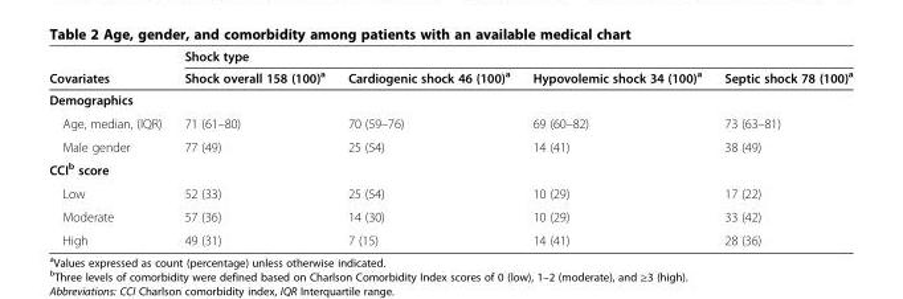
<table><thead><tr><td rowspan="2">Covariates</td><td colspan="4">Shock type</td></tr><tr><td>Shock overall 158 (100)<sup>a</sup></td><td>Cardiogenic shock 46 (100)<sup>a</sup></td><td>Hypovolemic shock 34 (100)<sup>a</sup></td><td>Septic shock 78 (100)<sup>a</sup></td></tr></thead><tbody><tr><td colspan="5">Demographics</td></tr><tr><td>Age, median, (IQR)</td><td>71 (61–80)</td><td>70 (59–76)</td><td>69 (60–82)</td><td>73 (63–81)</td></tr><tr><td>Male gender</td><td>77 (49)</td><td>25 (54)</td><td>14 (41)</td><td>38 (49)</td></tr><tr><td colspan="5">CCI<sup>b</sup> score</td></tr><tr><td>Low</td><td>52 (33)</td><td>25 (54)</td><td>10 (29)</td><td>17 (22)</td></tr><tr><td>Moderate</td><td>57 (36)</td><td>14 (30)</td><td>10 (29)</td><td>33 (42)</td></tr><tr><td>High</td><td>49 (31)</td><td>7 (15)</td><td>14 (41)</td><td>28 (36)</td></tr></tbody></table>